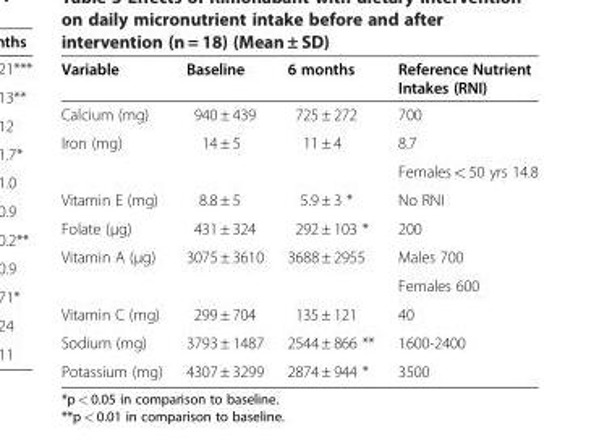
<table><thead><tr><td>Variable</td><td>Baseline</td><td>6 months</td><td>Reference Nutrient Intakes (RNI)</td></tr></thead><tbody><tr><td>Calcium (mg)</td><td>940 ± 439</td><td>725 ± 272</td><td>700</td></tr><tr><td rowspan="2">Iron (mg)</td><td>14 ± 5</td><td>11 ± 4</td><td>8.7</td></tr><tr><td></td><td></td><td>Females &lt; 50 yrs 14.8</td></tr><tr><td>Vitamin E (mg)</td><td>8.8 ± 5</td><td>5.9 ± 3 *</td><td>No RNI</td></tr><tr><td>Folate (μg)</td><td>431 ± 324</td><td>292 ± 103 *</td><td>200</td></tr><tr><td rowspan="2">Vitamin A (μg)</td><td>3075 ± 3610</td><td>3688 ± 2955</td><td>Males 700</td></tr><tr><td></td><td></td><td>Females 600</td></tr><tr><td>Vitamin C (mg)</td><td>299 ± 704</td><td>135 ± 121</td><td>40</td></tr><tr><td>Sodium (mg)</td><td>3793 ± 1487</td><td>2544 ± 866 **</td><td>1600-2400</td></tr><tr><td>Potassium (mg)</td><td>4307 ± 3299</td><td>2874 ± 944 *</td><td>3500</td></tr></tbody></table>